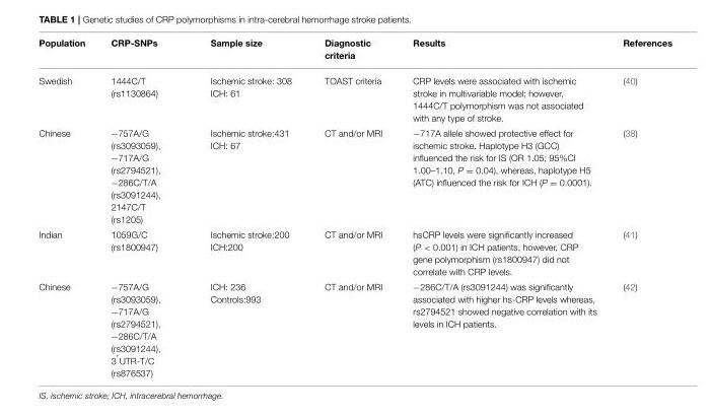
<table><thead><tr><td>Population</td><td>CRP-SNPs</td><td>Sample size</td><td>Diagnostic criteria</td><td>Results</td><td>References</td></tr></thead><tbody><tr><td>Swedish</td><td>1444C/T (rs1130864)</td><td>Ischemic stroke: 308 ICH: 61</td><td>TOAST criteria</td><td>CRP levels were associated with ischemic stroke in multivariable model; however, 1444C/T polymorphism was not associated with any type of stroke.</td><td>(40)</td></tr><tr><td>Chinese</td><td>−757A/G (rs3093059), −717A/G (rs2794521), −286C/T/A (rs3091244), 2147C/T (rs1205)</td><td>Ischemic stroke:431 ICH: 67</td><td>CT and/or MRI</td><td>−717A allele showed protective effect for ischemic stroke. Haplotype H3 (GCC) influenced the risk for IS (OR 1.05; 95%CI 1.00–1.10, P = 0.04), whereas, haplotype H5 (ATC) influenced the risk for ICH (P = 0.0001).</td><td>(38)</td></tr><tr><td>Indian</td><td>1059G/C (rs1800947)</td><td>Ischemic stroke:200 ICH:200</td><td>CT and/or MRI</td><td>hsCRP levels were significantly increased (P &lt; 0.001) in ICH patients, however, CRP gene polymorphism (rs1800947) did not correlate with CRP levels.</td><td>(41)</td></tr><tr><td>Chinese</td><td>−757A/G (rs3093059), −717A/G (rs2794521), −286C/T/A (rs3091244), 3 ′UTR-T/C (rs876537)</td><td>ICH: 236 Controls:993</td><td>CT and/or MRI</td><td>−286C/T/A (rs3091244) was significantly associated with higher hs-CRP levels whereas, rs2794521 showed negative correlation with its levels in ICH patients.</td><td>(42)</td></tr></tbody></table>